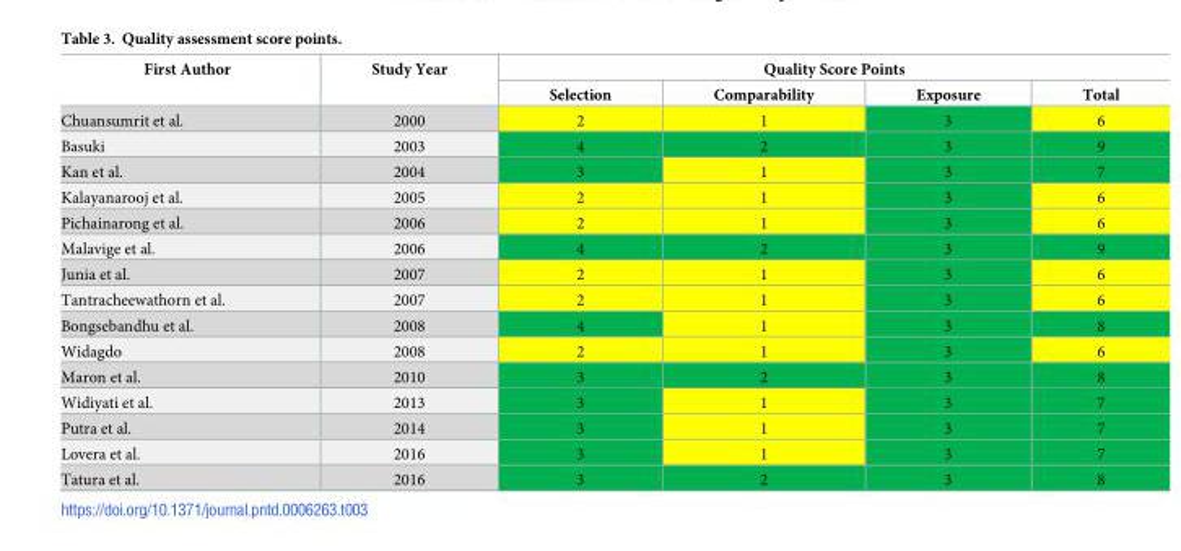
<table><thead><tr><td rowspan="2">First Author</td><td rowspan="2">Study Year</td><td colspan="4">Quality Score Points</td></tr><tr><td>Selection</td><td>Comparability</td><td>Exposure</td><td>Total</td></tr></thead><tbody><tr><td>Chuansumrit et al.</td><td>2000</td><td>2</td><td>1</td><td>3</td><td>6</td></tr><tr><td>Basuki</td><td>2003</td><td>4</td><td>2</td><td>3</td><td>9</td></tr><tr><td>Kan et al.</td><td>2004</td><td>3</td><td>1</td><td>3</td><td>7</td></tr><tr><td>Kalayanarooj et al.</td><td>2005</td><td>2</td><td>1</td><td>3</td><td>6</td></tr><tr><td>Pichainarong et al.</td><td>2006</td><td>2</td><td>1</td><td>3</td><td>6</td></tr><tr><td>Malavige et al.</td><td>2006</td><td>4</td><td>2</td><td>3</td><td>9</td></tr><tr><td>Junia et al.</td><td>2007</td><td>2</td><td>1</td><td>3</td><td>6</td></tr><tr><td>Tantracheewathorn et al.</td><td>2007</td><td>2</td><td>1</td><td>3</td><td>6</td></tr><tr><td>Bongsebandhu et al.</td><td>2008</td><td>4</td><td>1</td><td>3</td><td>8</td></tr><tr><td>Widagdo</td><td>2008</td><td>2</td><td>1</td><td>3</td><td>6</td></tr><tr><td>Maron et al.</td><td>2010</td><td>3</td><td>2</td><td>3</td><td>8</td></tr><tr><td>Widiyati et al.</td><td>2013</td><td>3</td><td>1</td><td>3</td><td>7</td></tr><tr><td>Putra et al.</td><td>2014</td><td>3</td><td>1</td><td>3</td><td>7</td></tr><tr><td>Lovera et al.</td><td>2016</td><td>3</td><td>1</td><td>3</td><td>7</td></tr><tr><td>Tatura et al.</td><td>2016</td><td>3</td><td>2</td><td>3</td><td>8</td></tr></tbody></table>